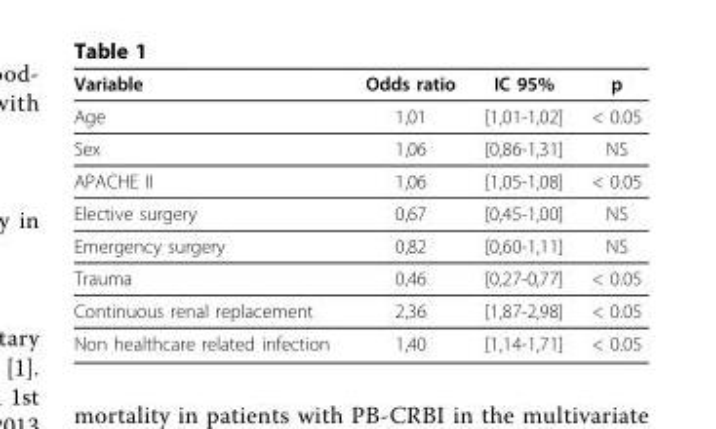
<table><thead><tr><td>Variable</td><td>Odds ratio</td><td>IC 95%</td><td>p</td></tr></thead><tbody><tr><td>Age</td><td>1,01</td><td>[1,01-1,02]</td><td>&lt; 0.05</td></tr><tr><td>Sex</td><td>1,06</td><td>[0,86-1,31]</td><td>NS</td></tr><tr><td>APACHE II</td><td>1,06</td><td>[1,05-1,08]</td><td>&lt; 0.05</td></tr><tr><td>Elective surgery</td><td>0,67</td><td>[0,45-1,00]</td><td>NS</td></tr><tr><td>Emergency surgery</td><td>0,82</td><td>[0,60-1,11]</td><td>NS</td></tr><tr><td>Trauma</td><td>0,46</td><td>[0,27-0,77]</td><td>&lt; 0.05</td></tr><tr><td>Continuous renal replacement</td><td>2,36</td><td>[1,87-2,98]</td><td>&lt; 0.05</td></tr><tr><td>Non healthcare related infection</td><td>1,40</td><td>[1,14-1,71]</td><td>&lt; 0.05</td></tr></tbody></table>